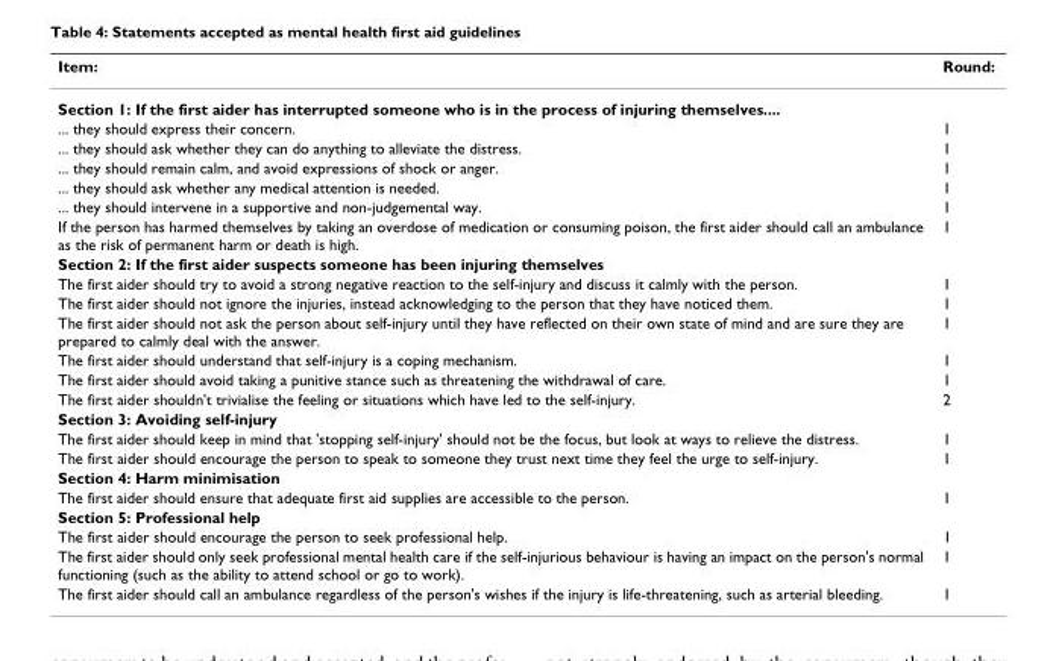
<table><thead><tr><td>Item:</td><td>Round:</td></tr></thead><tbody><tr><td colspan="2">Section 1: If the first aider has interrupted someone who is in the process of injuring themselves....</td></tr><tr><td>... they should express their concern.</td><td>1</td></tr><tr><td>... they should ask whether they can do anything to alleviate the distress.</td><td>1</td></tr><tr><td>... they should remain calm, and avoid expressions of shock or anger.</td><td>1</td></tr><tr><td>... they should ask whether any medical attention is needed.</td><td>1</td></tr><tr><td>... they should intervene in a supportive and non-judgemental way.</td><td>1</td></tr><tr><td>If the person has harmed themselves by taking an overdose of medication or consuming poison, the first aider should call an ambulance as the risk of permanent harm or death is high.</td><td>1</td></tr><tr><td colspan="2">Section 2: If the first aider suspects someone has been injuring themselves</td></tr><tr><td>The first aider should try to avoid a strong negative reaction to the self-injury and discuss it calmly with the person.</td><td>1</td></tr><tr><td>The first aider should not ignore the injuries, instead acknowledging to the person that they have noticed them.</td><td>1</td></tr><tr><td>The first aider should not ask the person about self-injury until they have reflected on their own state of mind and are sure they are prepared to calmly deal with the answer.</td><td>1</td></tr><tr><td>The first aider should understand that self-injury is a coping mechanism.</td><td>1</td></tr><tr><td>The first aider should avoid taking a punitive stance such as threatening the withdrawal of care.</td><td>1</td></tr><tr><td>The first aider shouldn&#x27;t trivialise the feeling or situations which have led to the self-injury.</td><td>2</td></tr><tr><td colspan="2">Section 3: Avoiding self-injury</td></tr><tr><td>The first aider should keep in mind that &#x27;stopping self-injury&#x27; should not be the focus, but look at ways to relieve the distress.</td><td>1</td></tr><tr><td>The first aider should encourage the person to speak to someone they trust next time they feel the urge to self-injury.</td><td>1</td></tr><tr><td colspan="2">Section 4: Harm minimisation</td></tr><tr><td>The first aider should ensure that adequate first aid supplies are accessible to the person.</td><td>1</td></tr><tr><td colspan="2">Section 5: Professional help</td></tr><tr><td>The first aider should encourage the person to seek professional help.</td><td>1</td></tr><tr><td>The first aider should only seek professional mental health care if the self-injurious behaviour is having an impact on the person&#x27;s normal functioning (such as the ability to attend school or go to work).</td><td>1</td></tr><tr><td>The first aider should call an ambulance regardless of the person&#x27;s wishes if the injury is life-threatening, such as arterial bleeding.</td><td>1</td></tr></tbody></table>